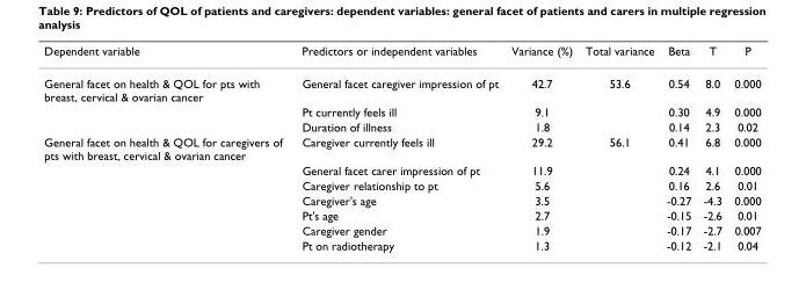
<table><thead><tr><td>Dependent variable</td><td>Predictors or independent variables</td><td>Variance (%)</td><td>Total variance</td><td>Beta</td><td>T</td><td>P</td></tr></thead><tbody><tr><td rowspan="3">General facet on health &amp; QOL for pts with breast, cervical &amp; ovarian cancer</td><td>General facet caregiver impression of pt</td><td>42.7</td><td>53.6</td><td>0.54</td><td>8.0</td><td>0.000</td></tr><tr><td>Pt currently feels ill</td><td>9.1</td><td></td><td>0.30</td><td>4.9</td><td>0.000</td></tr><tr><td>Duration of illness</td><td>1.8</td><td></td><td>0.14</td><td>2.3</td><td>0.02</td></tr><tr><td rowspan="7">General facet on health &amp; QOL for caregivers of pts with breast, cervical &amp; ovarian cancer</td><td>Caregiver currently feels ill</td><td>29.2</td><td>56.1</td><td>0.41</td><td>6.8</td><td>0.000</td></tr><tr><td>General facet carer impression of pt</td><td>11.9</td><td></td><td>0.24</td><td>4.1</td><td>0.000</td></tr><tr><td>Caregiver relationship to pt</td><td>5.6</td><td></td><td>0.16</td><td>2.6</td><td>0.01</td></tr><tr><td>Caregiver&#x27;s age</td><td>3.5</td><td></td><td>-0.27</td><td>-4.3</td><td>0.000</td></tr><tr><td>Pt&#x27;s age</td><td>2.7</td><td></td><td>-0.15</td><td>-2.6</td><td>0.01</td></tr><tr><td>Caregiver gender</td><td>1.9</td><td></td><td>-0.17</td><td>-2.7</td><td>0.007</td></tr><tr><td>Pt on radiotherapy</td><td>1.3</td><td></td><td>-0.12</td><td>-2.1</td><td>0.04</td></tr></tbody></table>